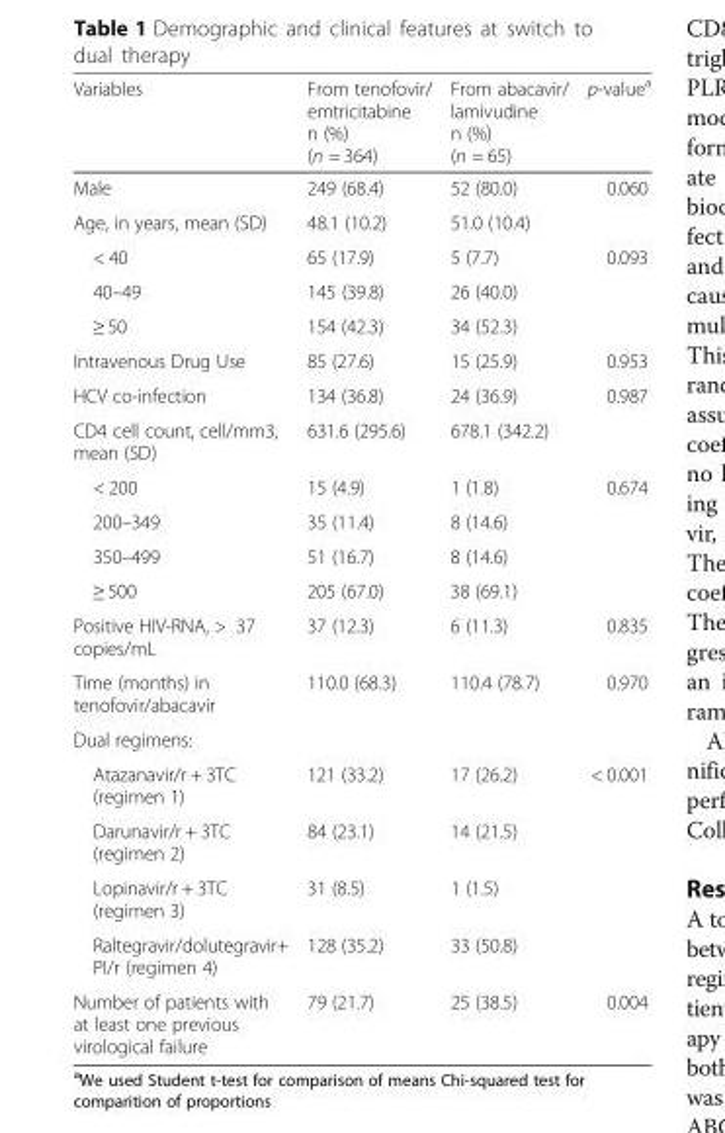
<table><thead><tr><td>Variables</td><td>From tenofovir/ emtricitabine n (%) (n = 364)</td><td>From abacavir/ lamivudine n (%) (n = 65)</td><td>p-value<sup>a</sup></td></tr></thead><tbody><tr><td>Male</td><td>249 (68.4)</td><td>52 (80.0)</td><td>0.060</td></tr><tr><td>Age, in years, mean (SD)</td><td>48.1 (10.2)</td><td>51.0 (10.4)</td><td></td></tr><tr><td>&lt; 40</td><td>65 (17.9)</td><td>5 (7.7)</td><td>0.093</td></tr><tr><td>40–49</td><td>145 (39.8)</td><td>26 (40.0)</td><td></td></tr><tr><td>≥ 50</td><td>154 (42.3)</td><td>34 (52.3)</td><td></td></tr><tr><td>Intravenous Drug Use</td><td>85 (27.6)</td><td>15 (25.9)</td><td>0.953</td></tr><tr><td>HCV co-infection</td><td>134 (36.8)</td><td>24 (36.9)</td><td>0.987</td></tr><tr><td>CD4 cell count, cell/mm3, mean (SD)</td><td>631.6 (295.6)</td><td>678.1 (342.2)</td><td></td></tr><tr><td>&lt; 200</td><td>15 (4.9)</td><td>1 (1.8)</td><td>0.674</td></tr><tr><td>200–349</td><td>35 (11.4)</td><td>8 (14.6)</td><td></td></tr><tr><td>350–499</td><td>51 (16.7)</td><td>8 (14.6)</td><td></td></tr><tr><td>≥ 500</td><td>205 (67.0)</td><td>38 (69.1)</td><td></td></tr><tr><td>Positive HIV-RNA, &gt; 37 copies/mL</td><td>37 (12.3)</td><td>6 (11.3)</td><td>0.835</td></tr><tr><td>Time (months) in tenofovir/abacavir</td><td>110.0 (68.3)</td><td>110.4 (78.7)</td><td>0.970</td></tr><tr><td colspan="4">Dual regimens:</td></tr><tr><td>Atazanavir/r + 3TC (regimen 1)</td><td>121 (33.2)</td><td>17 (26.2)</td><td>&lt; 0.001</td></tr><tr><td>Darunavir/r + 3TC (regimen 2)</td><td>84 (23.1)</td><td>14 (21.5)</td><td></td></tr><tr><td>Lopinavir/r + 3TC (regimen 3)</td><td>31 (8.5)</td><td>1 (1.5)</td><td></td></tr><tr><td>Raltegravir/dolutegravir+ PI/r (regimen 4)</td><td>128 (35.2)</td><td>33 (50.8)</td><td></td></tr><tr><td>Number of patients with at least one previous virological failure</td><td>79 (21.7)</td><td>25 (38.5)</td><td>0.004</td></tr></tbody></table>